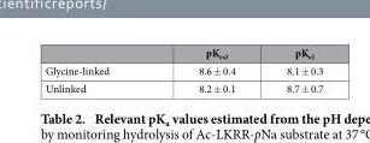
<table><thead><tr><td></td><td>pK<sub>es1</sub></td><td>pK<sub>e1</sub></td></tr></thead><tbody><tr><td>Glycine-linked</td><td>8.6 ± 0.4</td><td>8.1 ± 0.3</td></tr><tr><td>Unlinked</td><td>8.2 ± 0.1</td><td>8.7 ± 0.7</td></tr></tbody></table>